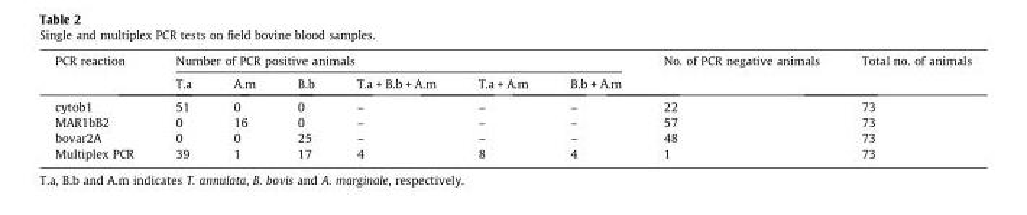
<table><thead><tr><td rowspan="2">PCR reaction</td><td colspan="6">Number of PCR positive animals</td><td rowspan="2">No. of PCR negative animals</td><td rowspan="2">Total no. of animals</td></tr><tr><td>T.a</td><td>A.m</td><td>B.b</td><td>T.a + B.b + A.m</td><td>T.a + A.m</td><td>B.b + A.m</td></tr></thead><tbody><tr><td>cytob1</td><td>51</td><td>0</td><td>0</td><td>–</td><td>–</td><td>–</td><td>22</td><td>73</td></tr><tr><td>MAR1bB2</td><td>0</td><td>16</td><td>0</td><td>–</td><td>–</td><td>–</td><td>57</td><td>73</td></tr><tr><td>bovar2A</td><td>0</td><td>0</td><td>25</td><td>–</td><td>–</td><td>–</td><td>48</td><td>73</td></tr><tr><td>Multiplex PCR</td><td>39</td><td>1</td><td>17</td><td>4</td><td>8</td><td>4</td><td>1</td><td>73</td></tr></tbody></table>